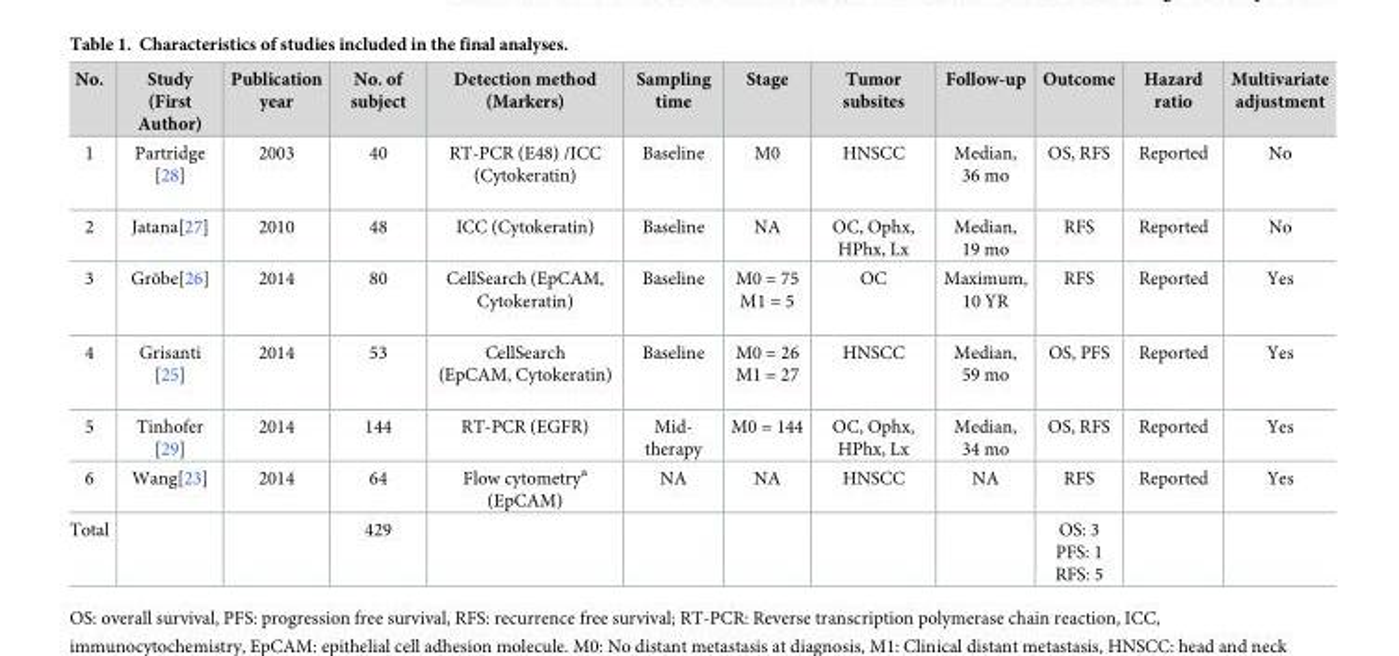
<table><thead><tr><td>No.</td><td>Study (First Author)</td><td>Publication year</td><td>No. of subject</td><td>Detection method (Markers)</td><td>Sampling time</td><td>Stage</td><td>Tumor subsites</td><td>Follow-up</td><td>Outcome</td><td>Hazard ratio</td><td>Multivariate adjustment</td></tr></thead><tbody><tr><td>1</td><td>Partridge [28]</td><td>2003</td><td>40</td><td>RT-PCR (E48) /ICC (Cytokeratin)</td><td>Baseline</td><td>M0</td><td>HNSCC</td><td>Median, 36 mo</td><td>OS, RFS</td><td>Reported</td><td>No</td></tr><tr><td>2</td><td>Jatana[27]</td><td>2010</td><td>48</td><td>ICC (Cytokeratin)</td><td>Baseline</td><td>NA</td><td>OC, Ophx, HPhx, Lx</td><td>Median, 19 mo</td><td>RFS</td><td>Reported</td><td>No</td></tr><tr><td>3</td><td>Gro¨be[26]</td><td>2014</td><td>80</td><td>CellSearch (EpCAM, Cytokeratin)</td><td>Baseline</td><td>M0 = 75 M1 = 5</td><td>OC</td><td>Maximum, 10 YR</td><td>RFS</td><td>Reported</td><td>Yes</td></tr><tr><td>4</td><td>Grisanti [25]</td><td>2014</td><td>53</td><td>CellSearch (EpCAM, Cytokeratin)</td><td>Baseline</td><td>M0 = 26 M1 = 27</td><td>HNSCC</td><td>Median, 59 mo</td><td>OS, PFS</td><td>Reported</td><td>Yes</td></tr><tr><td>5</td><td>Tinhofer [29]</td><td>2014</td><td>144</td><td>RT-PCR (EGFR)</td><td>Mid- therapy</td><td>M0 = 144</td><td>OC, Ophx, HPhx, Lx</td><td>Median, 34 mo</td><td>OS, RFS</td><td>Reported</td><td>Yes</td></tr><tr><td>6</td><td>Wang[23]</td><td>2014</td><td>64</td><td>Flow cytometry<sup>a</sup> (EpCAM)</td><td>NA</td><td>NA</td><td>HNSCC</td><td>NA</td><td>RFS</td><td>Reported</td><td>Yes</td></tr><tr><td>Total</td><td></td><td></td><td>429</td><td></td><td></td><td></td><td></td><td></td><td>OS: 3 PFS: 1 RFS: 5</td><td></td><td></td></tr></tbody></table>